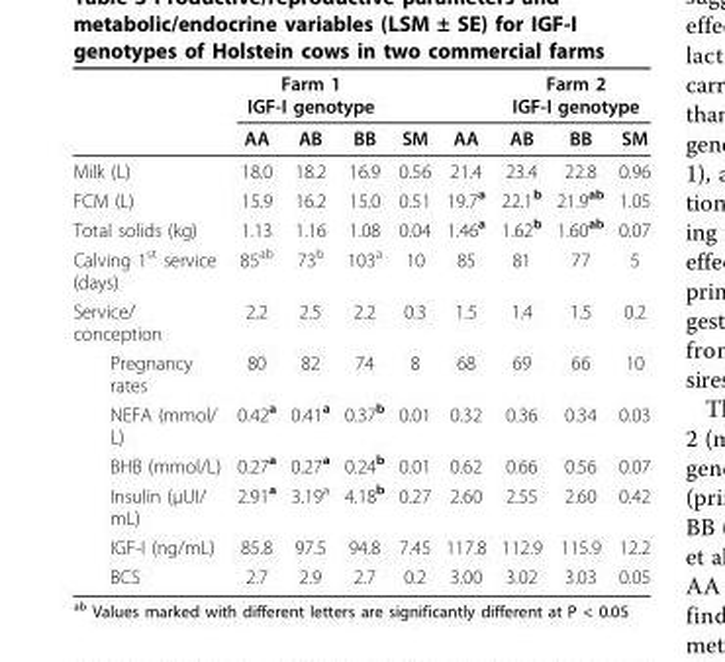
<table><thead><tr><td rowspan="2"></td><td colspan="3">Farm 1 IGF-I genotype</td><td rowspan="2">SM</td><td rowspan="2">AA</td><td colspan="3">Farm 2 IGF-I genotype</td></tr><tr><td>AA</td><td>AB</td><td>BB</td><td>AB</td><td>BB</td><td>SM</td></tr></thead><tbody><tr><td>Milk (L)</td><td>18.0</td><td>18.2</td><td>16.9</td><td>0.56</td><td>21.4</td><td>23.4</td><td>22.8</td><td>0.96</td></tr><tr><td>FCM (L)</td><td>15.9</td><td>16.2</td><td>15.0</td><td>0.51</td><td>19.7<sup>a</sup></td><td>22.1<sup>b</sup></td><td>21.9<sup>ab</sup></td><td>1.05</td></tr><tr><td>Total solids (kg)</td><td>1.13</td><td>1.16</td><td>1.08</td><td>0.04</td><td>1.46<sup>a</sup></td><td>1.62<sup>b</sup></td><td>1.60<sup>ab</sup></td><td>0.07</td></tr><tr><td>Calving 1<sup>st</sup> service (days)</td><td>85<sup>ab</sup></td><td>73<sup>b</sup></td><td>103<sup>a</sup></td><td>10</td><td>85</td><td>81</td><td>77</td><td>5</td></tr><tr><td>Service/ conception</td><td>2.2</td><td>2.5</td><td>2.2</td><td>0.3</td><td>1.5</td><td>1.4</td><td>1.5</td><td>0.2</td></tr><tr><td>Pregnancy rates</td><td>80</td><td>82</td><td>74</td><td>8</td><td>68</td><td>69</td><td>66</td><td>10</td></tr><tr><td>NEFA (mmol/ L)</td><td>0.42<sup>a</sup></td><td>0.41<sup>a</sup></td><td>0.37<sup>b</sup></td><td>0.01</td><td>0.32</td><td>0.36</td><td>0.34</td><td>0.03</td></tr><tr><td>BHB (mmol/L)</td><td>0.27<sup>a</sup></td><td>0.27<sup>a</sup></td><td>0.24<sup>b</sup></td><td>0.01</td><td>0.62</td><td>0.66</td><td>0.56</td><td>0.07</td></tr><tr><td>Insulin (μUI/ mL)</td><td>2.91<sup>a</sup></td><td>3.19<sup>a</sup></td><td>4.18<sup>b</sup></td><td>0.27</td><td>2.60</td><td>2.55</td><td>2.60</td><td>0.42</td></tr><tr><td>IGF-I (ng/mL)</td><td>85.8</td><td>97.5</td><td>94.8</td><td>7.45</td><td>117.8</td><td>112.9</td><td>115.9</td><td>12.2</td></tr><tr><td>BCS</td><td>2.7</td><td>2.9</td><td>2.7</td><td>0.2</td><td>3.00</td><td>3.02</td><td>3.03</td><td>0.05</td></tr></tbody></table>